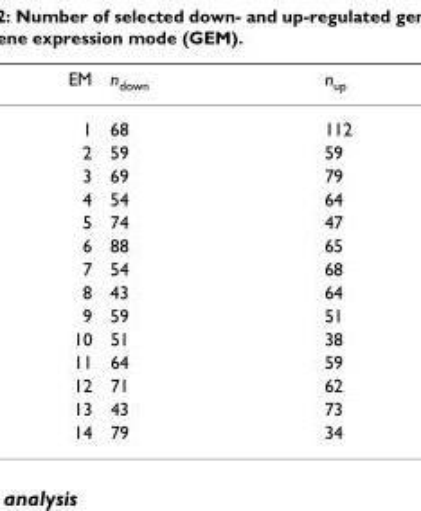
<table><thead><tr><td>EM</td><td>n<sub>down</sub></td><td>n<sub>up</sub></td></tr></thead><tbody><tr><td>1</td><td>68</td><td>112</td></tr><tr><td>2</td><td>59</td><td>59</td></tr><tr><td>3</td><td>69</td><td>79</td></tr><tr><td>4</td><td>54</td><td>64</td></tr><tr><td>5</td><td>74</td><td>47</td></tr><tr><td>6</td><td>88</td><td>65</td></tr><tr><td>7</td><td>54</td><td>68</td></tr><tr><td>8</td><td>43</td><td>64</td></tr><tr><td>9</td><td>59</td><td>51</td></tr><tr><td>10</td><td>51</td><td>38</td></tr><tr><td>11</td><td>64</td><td>59</td></tr><tr><td>12</td><td>71</td><td>62</td></tr><tr><td>13</td><td>43</td><td>73</td></tr><tr><td>14</td><td>79</td><td>34</td></tr></tbody></table>